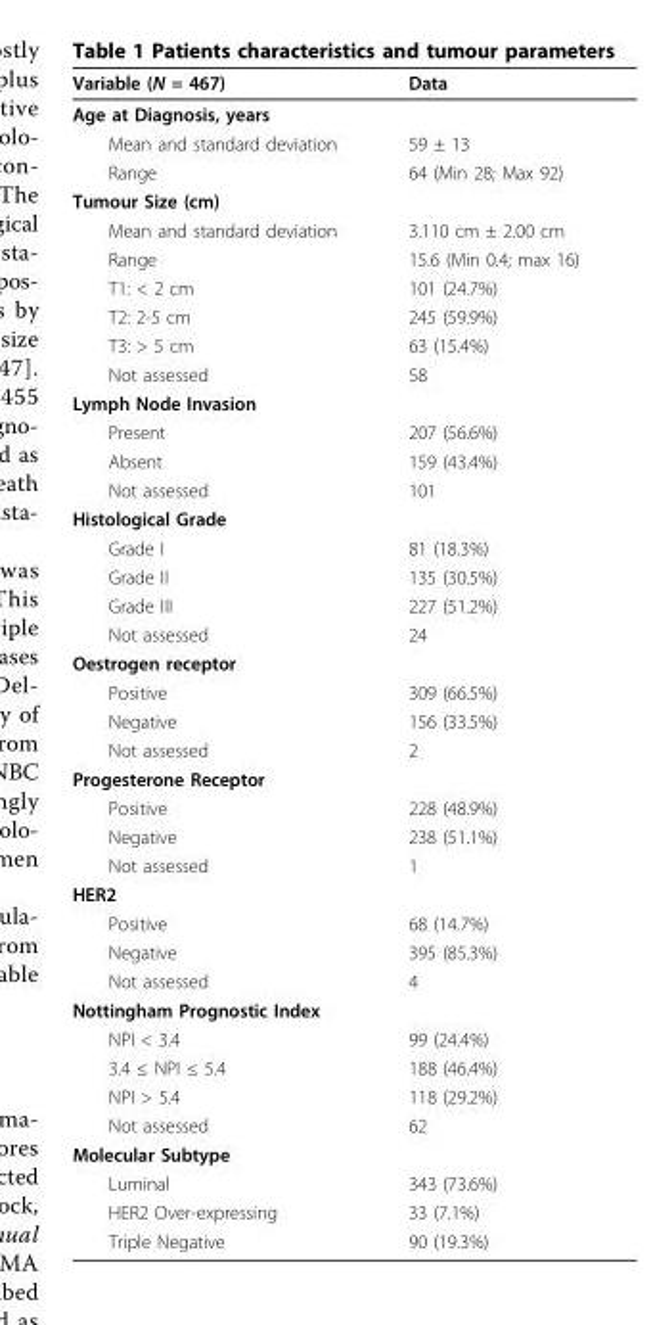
<table><thead><tr><td>Variable (N = 467)</td><td>Data</td></tr></thead><tbody><tr><td colspan="2">Age at Diagnosis, years</td></tr><tr><td>Mean and standard deviation</td><td>59 ± 13</td></tr><tr><td>Range</td><td>64 (Min 28; Max 92)</td></tr><tr><td colspan="2">Tumour Size (cm)</td></tr><tr><td>Mean and standard deviation</td><td>3.110 cm ± 2.00 cm</td></tr><tr><td>Range</td><td>15.6 (Min 0.4; max 16)</td></tr><tr><td>T1: &lt; 2 cm</td><td>101 (24.7%)</td></tr><tr><td>T2: 2-5 cm</td><td>245 (59.9%)</td></tr><tr><td>T3: &gt; 5 cm</td><td>63 (15.4%)</td></tr><tr><td>Not assessed</td><td>58</td></tr><tr><td colspan="2">Lymph Node Invasion</td></tr><tr><td>Present</td><td>207 (56.6%)</td></tr><tr><td>Absent</td><td>159 (43.4%)</td></tr><tr><td>Not assessed</td><td>101</td></tr><tr><td colspan="2">Histological Grade</td></tr><tr><td>Grade I</td><td>81 (18.3%)</td></tr><tr><td>Grade II</td><td>135 (30.5%)</td></tr><tr><td>Grade III</td><td>227 (51.2%)</td></tr><tr><td>Not assessed</td><td>24</td></tr><tr><td colspan="2">Oestrogen receptor</td></tr><tr><td>Positive</td><td>309 (66.5%)</td></tr><tr><td>Negative</td><td>156 (33.5%)</td></tr><tr><td>Not assessed</td><td>2</td></tr><tr><td colspan="2">Progesterone Receptor</td></tr><tr><td>Positive</td><td>228 (48.9%)</td></tr><tr><td>Negative</td><td>238 (51.1%)</td></tr><tr><td>Not assessed</td><td>1</td></tr><tr><td colspan="2">HER2</td></tr><tr><td>Positive</td><td>68 (14.7%)</td></tr><tr><td>Negative</td><td>395 (85.3%)</td></tr><tr><td>Not assessed</td><td>4</td></tr><tr><td colspan="2">Nottingham Prognostic Index</td></tr><tr><td>NPI &lt; 3.4</td><td>99 (24.4%)</td></tr><tr><td>3.4 ≤ NPI ≤ 5.4</td><td>188 (46.4%)</td></tr><tr><td>NPI &gt; 5.4</td><td>118 (29.2%)</td></tr><tr><td>Not assessed</td><td>62</td></tr><tr><td colspan="2">Molecular Subtype</td></tr><tr><td>Luminal</td><td>343 (73.6%)</td></tr><tr><td>HER2 Over-expressing</td><td>33 (7.1%)</td></tr><tr><td>Triple Negative</td><td>90 (19.3%)</td></tr></tbody></table>